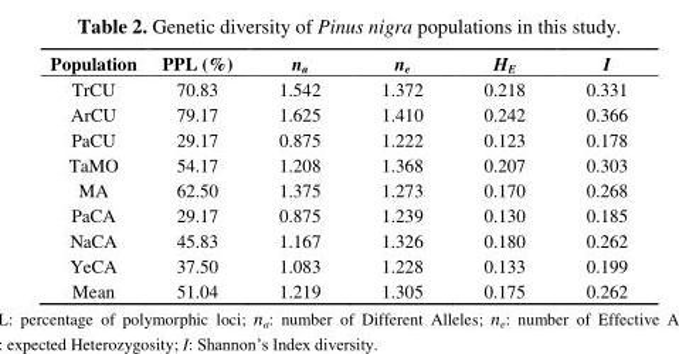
<table><thead><tr><td>Population</td><td>PPL (%)</td><td>n<sub>a</sub></td><td>n<sub>e</sub></td><td>H<sub>E</sub></td><td>I</td></tr></thead><tbody><tr><td>TrCU</td><td>70.83</td><td>1.542</td><td>1.372</td><td>0.218</td><td>0.331</td></tr><tr><td>ArCU</td><td>79.17</td><td>1.625</td><td>1.410</td><td>0.242</td><td>0.366</td></tr><tr><td>PaCU</td><td>29.17</td><td>0.875</td><td>1.222</td><td>0.123</td><td>0.178</td></tr><tr><td>TaMO</td><td>54.17</td><td>1.208</td><td>1.368</td><td>0.207</td><td>0.303</td></tr><tr><td>MA</td><td>62.50</td><td>1.375</td><td>1.273</td><td>0.170</td><td>0.268</td></tr><tr><td>PaCA</td><td>29.17</td><td>0.875</td><td>1.239</td><td>0.130</td><td>0.185</td></tr><tr><td>NaCA</td><td>45.83</td><td>1.167</td><td>1.326</td><td>0.180</td><td>0.262</td></tr><tr><td>YeCA</td><td>37.50</td><td>1.083</td><td>1.228</td><td>0.133</td><td>0.199</td></tr><tr><td>Mean</td><td>51.04</td><td>1.219</td><td>1.305</td><td>0.175</td><td>0.262</td></tr></tbody></table>